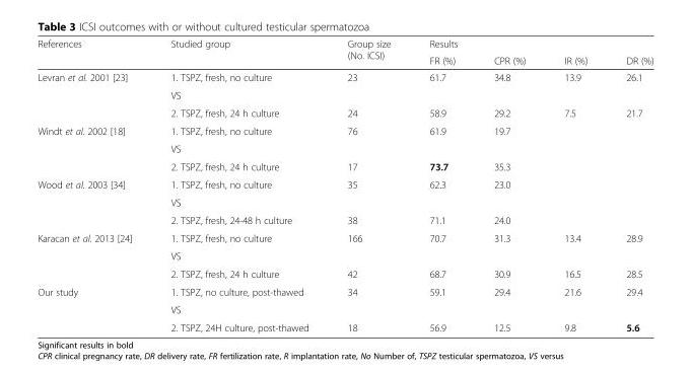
<table><thead><tr><td rowspan="2">References</td><td rowspan="2">Studied group</td><td rowspan="2">Group size (No. ICSI)</td><td colspan="4">Results</td></tr><tr><td>FR (%)</td><td>CPR (%)</td><td>IR (%)</td><td>DR (%)</td></tr></thead><tbody><tr><td rowspan="3">Levran et al. 2001 [23]</td><td>1. TSPZ, fresh, no culture</td><td>23</td><td>61.7</td><td>34.8</td><td>13.9</td><td>26.1</td></tr><tr><td>VS</td><td></td><td></td><td></td><td></td><td></td></tr><tr><td>2. TSPZ, fresh, 24 h culture</td><td>24</td><td>58.9</td><td>29.2</td><td>7.5</td><td>21.7</td></tr><tr><td rowspan="3">Windt et al. 2002 [18]</td><td>1. TSPZ, fresh, no culture</td><td>76</td><td>61.9</td><td>19.7</td><td></td><td></td></tr><tr><td>VS</td><td></td><td></td><td></td><td></td><td></td></tr><tr><td>2. TSPZ, fresh, 24 h culture</td><td>17</td><td>73.7</td><td>35.3</td><td></td><td></td></tr><tr><td rowspan="3">Wood et al. 2003 [34]</td><td>1. TSPZ, fresh, no culture</td><td>35</td><td>62.3</td><td>23.0</td><td></td><td></td></tr><tr><td>VS</td><td></td><td></td><td></td><td></td><td></td></tr><tr><td>2. TSPZ, fresh, 24-48 h culture</td><td>38</td><td>71.1</td><td>24.0</td><td></td><td></td></tr><tr><td rowspan="3">Karacan et al. 2013 [24]</td><td>1. TSPZ, fresh, no culture</td><td>166</td><td>70.7</td><td>31.3</td><td>13.4</td><td>28.9</td></tr><tr><td>VS</td><td></td><td></td><td></td><td></td><td></td></tr><tr><td>2. TSPZ, fresh, 24 h culture</td><td>42</td><td>68.7</td><td>30.9</td><td>16.5</td><td>28.5</td></tr><tr><td rowspan="3">Our study</td><td>1. TSPZ, no culture, post-thawed</td><td>34</td><td>59.1</td><td>29.4</td><td>21.6</td><td>29.4</td></tr><tr><td>VS</td><td></td><td></td><td></td><td></td><td></td></tr><tr><td>2. TSPZ, 24H culture, post-thawed</td><td>18</td><td>56.9</td><td>12.5</td><td>9.8</td><td>5.6</td></tr></tbody></table>